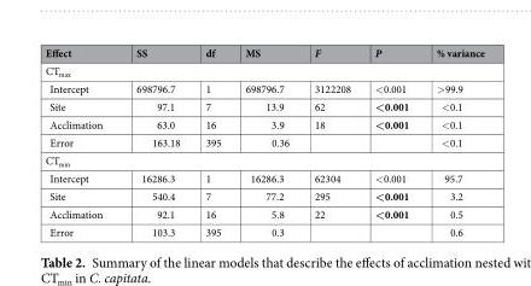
<table><thead><tr><td>Effect</td><td>SS</td><td>df</td><td>MS</td><td>F</td><td>P</td><td>% variance</td></tr></thead><tbody><tr><td colspan="7">CT<sub>max</sub></td></tr><tr><td>Intercept</td><td>698796.7</td><td>1</td><td>698796.7</td><td>3122208</td><td>&lt;0.001</td><td>&gt;99.9</td></tr><tr><td>Site</td><td>97.1</td><td>7</td><td>13.9</td><td>62</td><td>&lt;0.001</td><td>&lt;0.1</td></tr><tr><td>Acclimation</td><td>63.0</td><td>16</td><td>3.9</td><td>18</td><td>&lt;0.001</td><td>&lt;0.1</td></tr><tr><td>Error</td><td>163.18</td><td>395</td><td>0.36</td><td></td><td></td><td>&lt;0.1</td></tr><tr><td colspan="7">CT<sub>min</sub></td></tr><tr><td>Intercept</td><td>16286.3</td><td>1</td><td>16286.3</td><td>62304</td><td>&lt;0.001</td><td>95.7</td></tr><tr><td>Site</td><td>540.4</td><td>7</td><td>77.2</td><td>295</td><td>&lt;0.001</td><td>3.2</td></tr><tr><td>Acclimation</td><td>92.1</td><td>16</td><td>5.8</td><td>22</td><td>&lt;0.001</td><td>0.5</td></tr><tr><td>Error</td><td>103.3</td><td>395</td><td>0.3</td><td></td><td></td><td>0.6</td></tr></tbody></table>